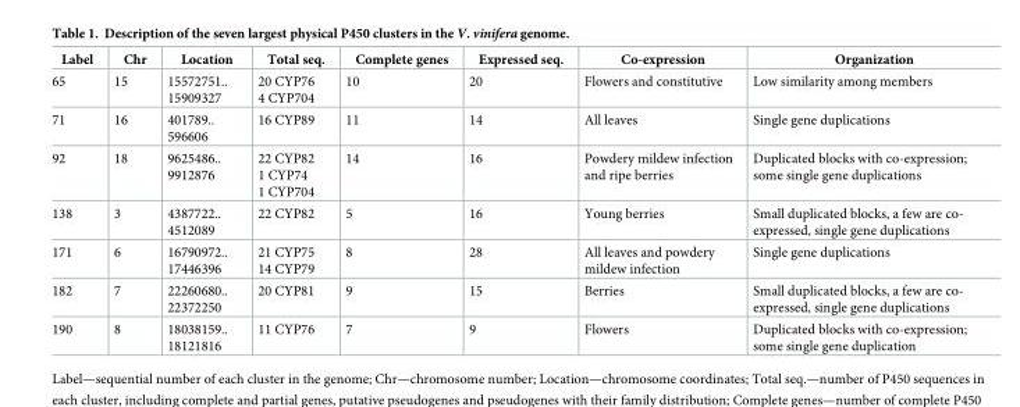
<table><thead><tr><td>Label</td><td>Chr</td><td>Location</td><td>Total seq.</td><td>Complete genes</td><td>Expressed seq.</td><td>Co-expression</td><td>Organization</td></tr></thead><tbody><tr><td>65</td><td>15</td><td>15572751.. 15909327</td><td>20 CYP76 4 CYP704</td><td>10</td><td>20</td><td>Flowers and constitutive</td><td>Low similarity among members</td></tr><tr><td>71</td><td>16</td><td>401789.. 596606</td><td>16 CYP89</td><td>11</td><td>14</td><td>All leaves</td><td>Single gene duplications</td></tr><tr><td>92</td><td>18</td><td>9625486.. 9912876</td><td>22 CYP82 1 CYP74 1 CYP704</td><td>14</td><td>16</td><td>Powdery mildew infection and ripe berries</td><td>Duplicated blocks with co-expression; some single gene duplications</td></tr><tr><td>138</td><td>3</td><td>4387722.. 4512089</td><td>22 CYP82</td><td>5</td><td>16</td><td>Young berries</td><td>Small duplicated blocks, a few are co- expressed, single gene duplications</td></tr><tr><td>171</td><td>6</td><td>16790972.. 17446396</td><td>21 CYP75 14 CYP79</td><td>8</td><td>28</td><td>All leaves and powdery mildew infection</td><td>Single gene duplications</td></tr><tr><td>182</td><td>7</td><td>22260680.. 22372250</td><td>20 CYP81</td><td>9</td><td>15</td><td>Berries</td><td>Small duplicated blocks, a few are co- expressed, single gene duplications</td></tr><tr><td>190</td><td>8</td><td>18038159.. 18121816</td><td>11 CYP76</td><td>7</td><td>9</td><td>Flowers</td><td>Duplicated blocks with co-expression; some single gene duplication</td></tr></tbody></table>